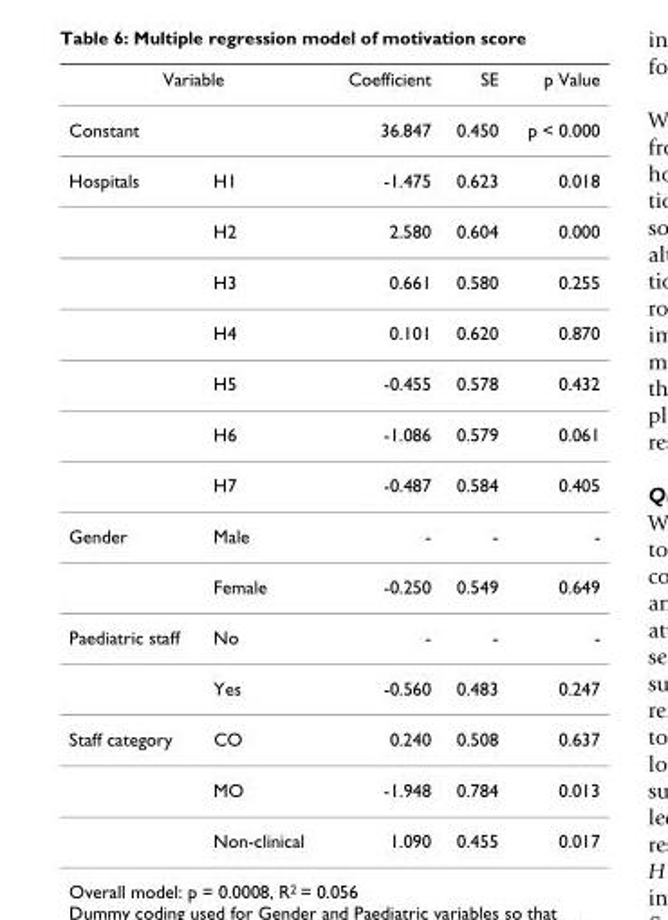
<table><thead><tr><td colspan="2">Variable</td><td rowspan="2">Coefficient 36.847</td><td rowspan="2">SE 0.450</td><td rowspan="2">p Value p &lt; 0.000</td></tr><tr><td>Constant</td><td></td></tr></thead><tbody><tr><td rowspan="7">Hospitals</td><td>H1</td><td>-1.475</td><td>0.623</td><td>0.018</td></tr><tr><td>H2</td><td>2.580</td><td>0.604</td><td>0.000</td></tr><tr><td>H3</td><td>0.661</td><td>0.580</td><td>0.255</td></tr><tr><td>H4</td><td>0.101</td><td>0.620</td><td>0.870</td></tr><tr><td>H5</td><td>-0.455</td><td>0.578</td><td>0.432</td></tr><tr><td>H6</td><td>-1.086</td><td>0.579</td><td>0.061</td></tr><tr><td>H7</td><td>-0.487</td><td>0.584</td><td>0.405</td></tr><tr><td rowspan="2">Gender</td><td>Male</td><td>-</td><td>-</td><td>-</td></tr><tr><td>Female</td><td>-0.250</td><td>0.549</td><td>0.649</td></tr><tr><td rowspan="2">Paediatric staff</td><td>No</td><td>-</td><td>-</td><td>-</td></tr><tr><td>Yes</td><td>-0.560</td><td>0.483</td><td>0.247</td></tr><tr><td rowspan="3">Staff category</td><td>CO</td><td>0.240</td><td>0.508</td><td>0.637</td></tr><tr><td>MO</td><td>-1.948</td><td>0.784</td><td>0.013</td></tr><tr><td>Non-clinical</td><td>1.090</td><td>0.455</td><td>0.017</td></tr></tbody></table>